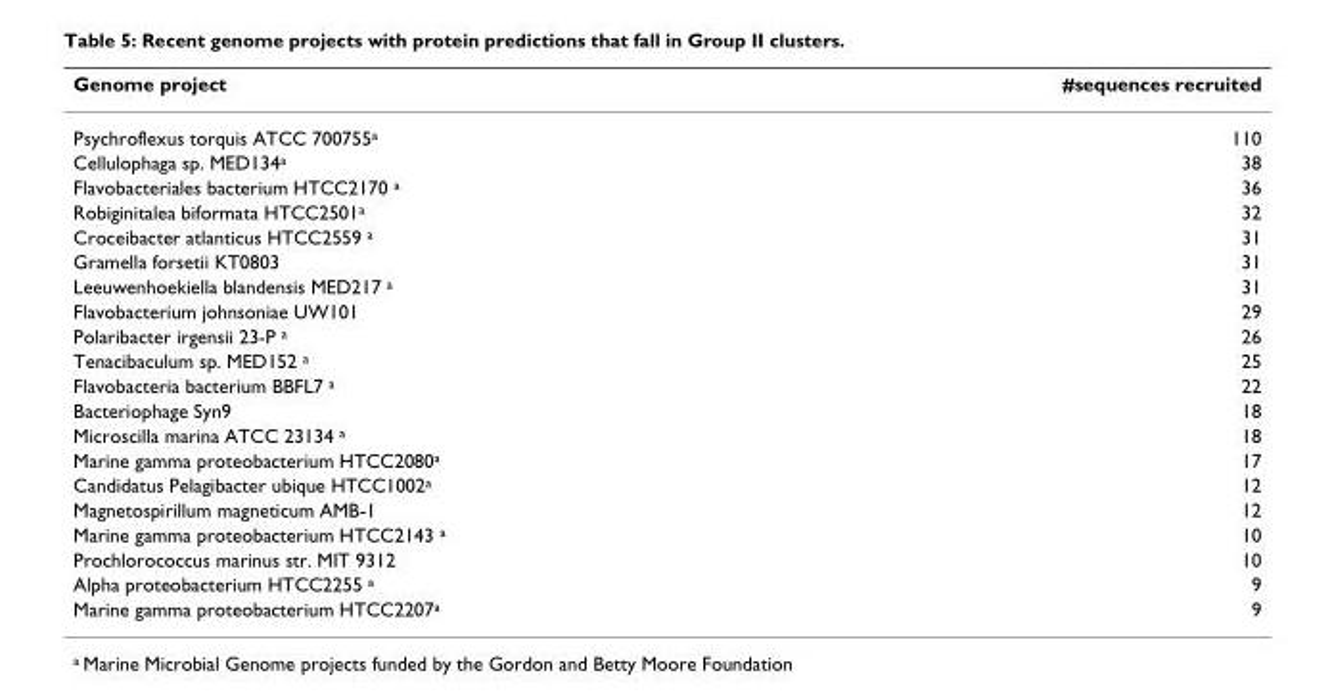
<table><thead><tr><td>Genome project</td><td>#sequences recruited</td></tr></thead><tbody><tr><td>Psychroflexus torquis ATCC 700755<sup>a</sup></td><td>110</td></tr><tr><td>Cellulophaga sp. MED134<sup>a</sup></td><td>38</td></tr><tr><td>Flavobacteriales bacterium HTCC2170 <sup>a</sup></td><td>36</td></tr><tr><td>Robiginitalea biformata HTCC2501<sup>a</sup></td><td>32</td></tr><tr><td>Croceibacter atlanticus HTCC2559 <sup>a</sup></td><td>31</td></tr><tr><td>Gramella forsetii KT0803</td><td>31</td></tr><tr><td>Leeuwenhoekiella blandensis MED217 <sup>a</sup></td><td>31</td></tr><tr><td>Flavobacterium johnsoniae UW101</td><td>29</td></tr><tr><td>Polaribacter irgensii 23-P <sup>a</sup></td><td>26</td></tr><tr><td>Tenacibaculum sp. MED152 <sup>a</sup></td><td>25</td></tr><tr><td>Flavobacteria bacterium BBFL7 <sup>a</sup></td><td>22</td></tr><tr><td>Bacteriophage Syn9</td><td>18</td></tr><tr><td>Microscilla marina ATCC 23134 <sup>a</sup></td><td>18</td></tr><tr><td>Marine gamma proteobacterium HTCC2080<sup>a</sup></td><td>17</td></tr><tr><td>Candidatus Pelagibacter ubique HTCC1002<sup>a</sup></td><td>12</td></tr><tr><td>Magnetospirillum magneticum AMB-1</td><td>12</td></tr><tr><td>Marine gamma proteobacterium HTCC2143 <sup>a</sup></td><td>10</td></tr><tr><td>Prochlorococcus marinus str. MIT 9312</td><td>10</td></tr><tr><td>Alpha proteobacterium HTCC2255 <sup>a</sup></td><td>9</td></tr><tr><td>Marine gamma proteobacterium HTCC2207<sup>a</sup></td><td>9</td></tr></tbody></table>